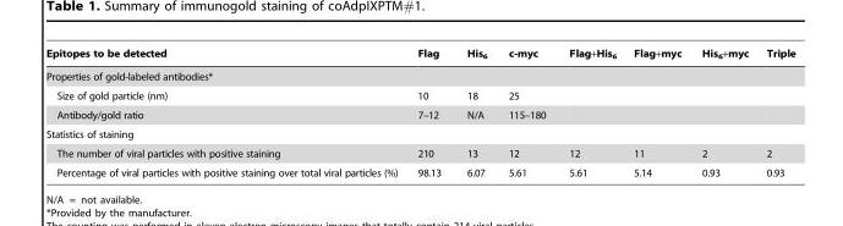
<table><thead><tr><td>Epitopes to be detected</td><td>Flag</td><td>His<sub>6</sub></td><td>c-myc</td><td>Flag+His<sub>6</sub></td><td>Flag+myc</td><td>His<sub>6</sub>+myc</td><td>Triple</td></tr></thead><tbody><tr><td colspan="8">Properties of gold-labeled antibodies*</td></tr><tr><td>Size of gold particle (nm)</td><td>10</td><td>18</td><td>25</td><td></td><td></td><td></td><td></td></tr><tr><td>Antibody/gold ratio</td><td>7–12</td><td>N/A</td><td>115–180</td><td></td><td></td><td></td><td></td></tr><tr><td colspan="8">Statistics of staining</td></tr><tr><td>The number of viral particles with positive staining</td><td>210</td><td>13</td><td>12</td><td>12</td><td>11</td><td>2</td><td>2</td></tr><tr><td>Percentage of viral particles with positive staining over total viral particles (%)</td><td>98.13</td><td>6.07</td><td>5.61</td><td>5.61</td><td>5.14</td><td>0.93</td><td>0.93</td></tr></tbody></table>